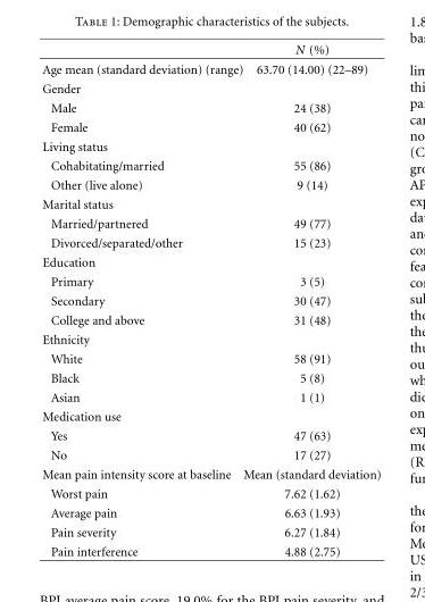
<table><thead><tr><td></td><td>N (%)</td></tr></thead><tbody><tr><td>Age mean (standard deviation) (range)</td><td>63.70 (14.00) (22–89)</td></tr><tr><td colspan="2">Gender</td></tr><tr><td>Male</td><td>24 (38)</td></tr><tr><td>Female</td><td>40 (62)</td></tr><tr><td colspan="2">Living status</td></tr><tr><td>Cohabitating/married</td><td>55 (86)</td></tr><tr><td>Other (live alone)</td><td>9 (14)</td></tr><tr><td colspan="2">Marital status</td></tr><tr><td>Married/partnered</td><td>49 (77)</td></tr><tr><td>Divorced/separated/other</td><td>15 (23)</td></tr><tr><td colspan="2">Education</td></tr><tr><td>Primary</td><td>3 (5)</td></tr><tr><td>Secondary</td><td>30 (47)</td></tr><tr><td>College and above</td><td>31 (48)</td></tr><tr><td colspan="2">Ethnicity</td></tr><tr><td>White</td><td>58 (91)</td></tr><tr><td>Black</td><td>5 (8)</td></tr><tr><td>Asian</td><td>1 (1)</td></tr><tr><td colspan="2">Medication use</td></tr><tr><td>Yes</td><td>47 (63)</td></tr><tr><td>No</td><td>17 (27)</td></tr><tr><td>Mean pain intensity score at baseline</td><td>Mean (standard deviation)</td></tr><tr><td>Worst pain</td><td>7.62 (1.62)</td></tr><tr><td>Average pain</td><td>6.63 (1.93)</td></tr><tr><td>Pain severity</td><td>6.27 (1.84)</td></tr><tr><td>Pain interference</td><td>4.88 (2.75)</td></tr></tbody></table>